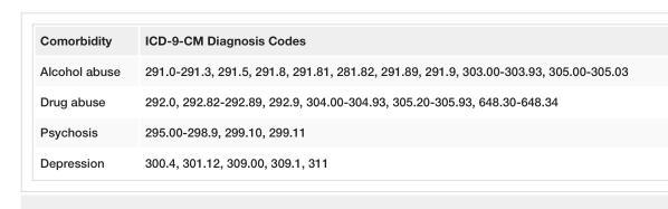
<table><tbody><tr><td>Comorbidity</td><td>ICD-9-CM Diagnosis Codes</td></tr><tr><td>Alcohol abuse</td><td>291.0-291.3, 291.5, 291.8, 291.81, 281.82, 291.89, 291.9, 303.00-303.93, 305.00-305.03</td></tr><tr><td>Drug abuse</td><td>292.0, 292.82-292.89, 292.9, 304.00-304.93, 305.20-305.93, 648.30-648.34</td></tr><tr><td>Psychosis</td><td>295.00-298.9, 299.10, 299.11</td></tr><tr><td>Depression</td><td>300.4, 301.12, 309.00, 309.1, 311</td></tr></tbody></table>